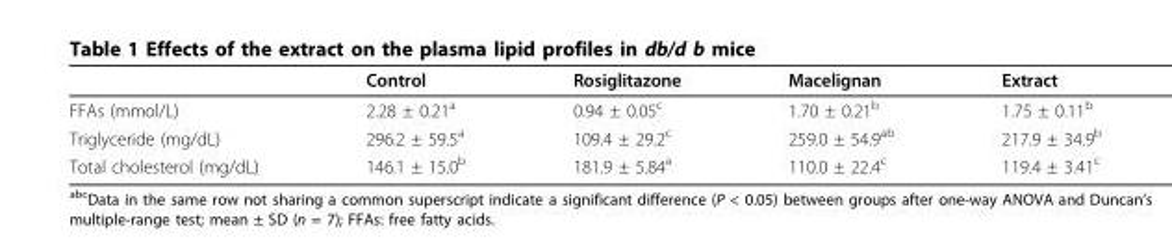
<table><thead><tr><td></td><td>Control</td><td>Rosiglitazone</td><td>Macelignan</td><td>Extract</td></tr></thead><tbody><tr><td>FFAs (mmol/L)</td><td>2.28 ± 0.21<sup>a</sup></td><td>0.94 ± 0.05<sup>c</sup></td><td>1.70 ± 0.21<sup>b</sup></td><td>1.75 ± 0.11<sup>b</sup></td></tr><tr><td>Triglyceride (mg/dL)</td><td>296.2 ± 59.5<sup>a</sup></td><td>109.4 ± 29.2<sup>c</sup></td><td>259.0 ± 54.9<sup>ab</sup></td><td>217.9 ± 34.9<sup>b</sup></td></tr><tr><td>Total cholesterol (mg/dL)</td><td>146.1 ± 15.0<sup>b</sup></td><td>181.9 ± 5.84<sup>a</sup></td><td>110.0 ± 22.4<sup>c</sup></td><td>119.4 ± 3.41<sup>c</sup></td></tr></tbody></table>